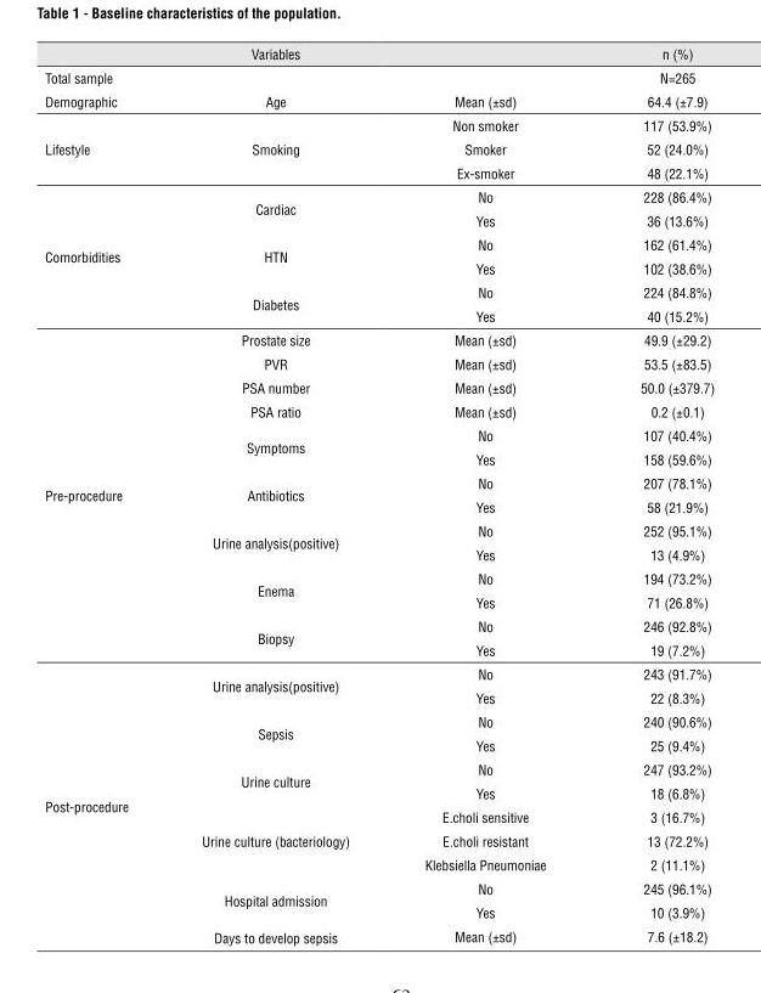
<table><thead><tr><td></td><td>Variables</td><td></td><td>n (%)</td></tr></thead><tbody><tr><td>Total sample</td><td></td><td></td><td>N=265</td></tr><tr><td>Demographic</td><td>Age</td><td>Mean (±sd)</td><td>64.4 (±7.9)</td></tr><tr><td rowspan="3">Lifestyle</td><td rowspan="3">Smoking</td><td>Non smoker</td><td>117 (53.9%)</td></tr><tr><td>Smoker</td><td>52 (24.0%)</td></tr><tr><td>Ex-smoker</td><td>48 (22.1%)</td></tr><tr><td rowspan="6">Comorbidities</td><td rowspan="2">Cardiac</td><td>No</td><td>228 (86.4%)</td></tr><tr><td>Yes</td><td>36 (13.6%)</td></tr><tr><td rowspan="2">HTN</td><td>No</td><td>162 (61.4%)</td></tr><tr><td>Yes</td><td>102 (38.6%)</td></tr><tr><td rowspan="2">Diabetes</td><td>No</td><td>224 (84.8%)</td></tr><tr><td>Yes</td><td>40 (15.2%)</td></tr><tr><td rowspan="14">Pre-procedure</td><td>Prostate size</td><td>Mean (±sd)</td><td>49.9 (±29.2)</td></tr><tr><td>PVR</td><td>Mean (±sd)</td><td>53.5 (±83.5)</td></tr><tr><td>PSA number</td><td>Mean (±sd)</td><td>50.0 (±379.7)</td></tr><tr><td>PSA ratio</td><td>Mean (±sd)</td><td>0.2 (±0.1)</td></tr><tr><td rowspan="2">Symptoms</td><td>No</td><td>107 (40.4%)</td></tr><tr><td>Yes</td><td>158 (59.6%)</td></tr><tr><td rowspan="2">Antibiotics</td><td>No</td><td>207 (78.1%)</td></tr><tr><td>Yes</td><td>58 (21.9%)</td></tr><tr><td rowspan="2">Urine analysis(positive)</td><td>No</td><td>252 (95.1%)</td></tr><tr><td>Yes</td><td>13 (4.9%)</td></tr><tr><td rowspan="2">Enema</td><td>No</td><td>194 (73.2%)</td></tr><tr><td>Yes</td><td>71 (26.8%)</td></tr><tr><td rowspan="2">Biopsy</td><td>No</td><td>246 (92.8%)</td></tr><tr><td>Yes</td><td>19 (7.2%)</td></tr><tr><td rowspan="12">Post-procedure</td><td rowspan="2">Urine analysis(positive)</td><td>No</td><td>243 (91.7%)</td></tr><tr><td>Yes</td><td>22 (8.3%)</td></tr><tr><td rowspan="2">Sepsis</td><td>No</td><td>240 (90.6%)</td></tr><tr><td>Yes</td><td>25 (9.4%)</td></tr><tr><td rowspan="2">Urine culture</td><td>No</td><td>247 (93.2%)</td></tr><tr><td>Yes</td><td>18 (6.8%)</td></tr><tr><td rowspan="3">Urine culture (bacteriology)</td><td>E.choli sensitive</td><td>3 (16.7%)</td></tr><tr><td>E.choli resistant</td><td>13 (72.2%)</td></tr><tr><td>Klebsiella Pneumoniae</td><td>2 (11.1%)</td></tr><tr><td rowspan="2">Hospital admission</td><td>No</td><td>245 (96.1%)</td></tr><tr><td>Yes</td><td>10 (3.9%)</td></tr><tr><td>Days to develop sepsis</td><td>Mean (±sd)</td><td>7.6 (±18.2)</td></tr></tbody></table>